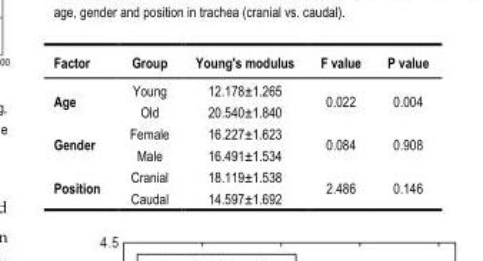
<table><thead><tr><td>Factor</td><td>Group</td><td>Young&#x27;s modulus</td><td>F value</td><td>P value</td></tr></thead><tbody><tr><td rowspan="2">Age</td><td>Young</td><td>12.178±1.265</td><td rowspan="2">0.022</td><td rowspan="2">0.004</td></tr><tr><td>Old</td><td>20.540±1.840</td></tr><tr><td rowspan="2">Gender</td><td>Female</td><td>16.227±1.623</td><td rowspan="2">0.084</td><td rowspan="2">0.908</td></tr><tr><td>Male</td><td>16.491±1.534</td></tr><tr><td rowspan="2">Position</td><td>Cranial</td><td>18.119±1.538</td><td rowspan="2">2.486</td><td rowspan="2">0.146</td></tr><tr><td>Caudal</td><td>14.597±1.692</td></tr></tbody></table>